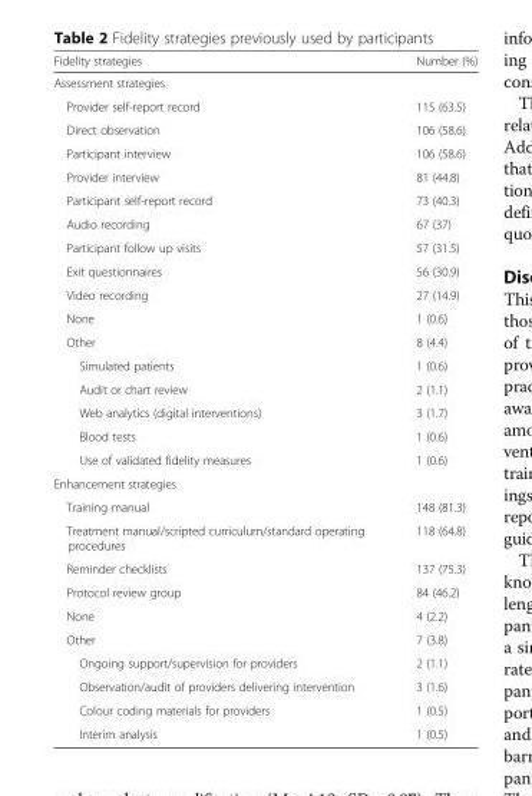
<table><thead><tr><td>Fidelity strategies</td><td>Number (%)</td></tr></thead><tbody><tr><td colspan="2">Assessment strategies</td></tr><tr><td>Provider self-report record</td><td>115 (63.5)</td></tr><tr><td>Direct observation</td><td>106 (58.6)</td></tr><tr><td>Participant interview</td><td>106 (58.6)</td></tr><tr><td>Provider interview</td><td>81 (44.8)</td></tr><tr><td>Participant self-report record</td><td>73 (40.3)</td></tr><tr><td>Audio recording</td><td>67 (37)</td></tr><tr><td>Participant follow up visits</td><td>57 (31.5)</td></tr><tr><td>Exit questionnaires</td><td>56 (30.9)</td></tr><tr><td>Video recording</td><td>27 (14.9)</td></tr><tr><td>None</td><td>1 (0.6)</td></tr><tr><td>Other</td><td>8 (4.4)</td></tr><tr><td>Simulated patients</td><td>1 (0.6)</td></tr><tr><td>Audit or chart review</td><td>2 (1.1)</td></tr><tr><td>Web analytics (digital interventions)</td><td>3 (1.7)</td></tr><tr><td>Blood tests</td><td>1 (0.6)</td></tr><tr><td>Use of validated fidelity measures</td><td>1 (0.6)</td></tr><tr><td colspan="2">Enhancement strategies</td></tr><tr><td>Training manual</td><td>148 (81.3)</td></tr><tr><td>Treatment manual/scripted curriculum/standard operating procedures</td><td>118 (64.8)</td></tr><tr><td>Reminder checklists</td><td>137 (75.3)</td></tr><tr><td>Protocol review group</td><td>84 (46.2)</td></tr><tr><td>None</td><td>4 (2.2)</td></tr><tr><td>Other</td><td>7 (3.8)</td></tr><tr><td>Ongoing support/supervision for providers</td><td>2 (1.1)</td></tr><tr><td>Observation/audit of providers delivering intervention</td><td>3 (1.6)</td></tr><tr><td>Colour coding materials for providers</td><td>1 (0.5)</td></tr><tr><td>Interim analysis</td><td>1 (0.5)</td></tr></tbody></table>